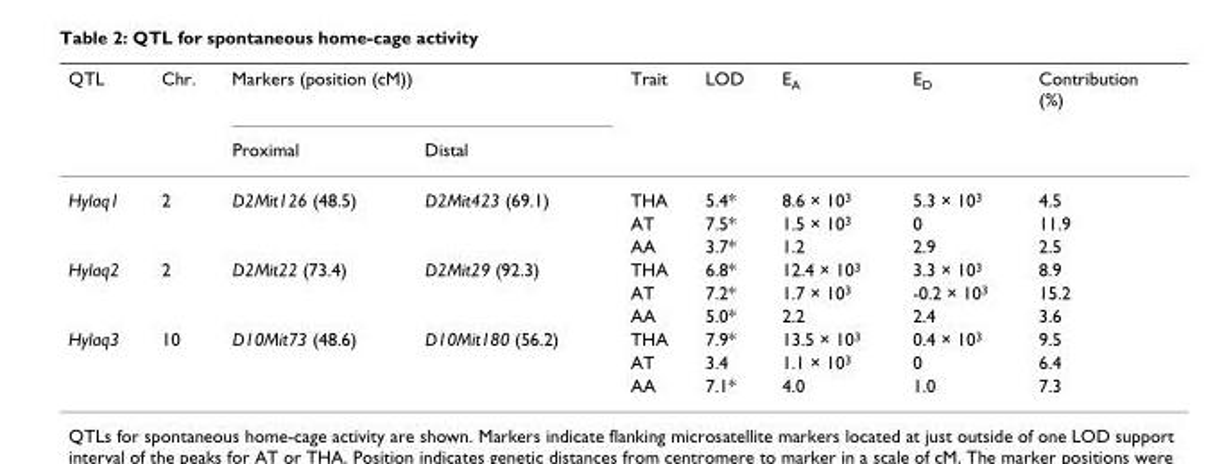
<table><thead><tr><td rowspan="2">QTL</td><td rowspan="2">Chr.</td><td colspan="2">Markers (position (cM))</td><td rowspan="2">Trait</td><td rowspan="2">LOD</td><td rowspan="2">E<sub>A</sub></td><td rowspan="2">E<sub>D</sub></td><td rowspan="2">Contribution (%)</td></tr><tr><td>Proximal</td><td>Distal</td></tr></thead><tbody><tr><td rowspan="3">Hylaq1</td><td>2</td><td>D2Mit126 (48.5)</td><td>D2Mit423 (69.1)</td><td>THA</td><td>5.4*</td><td>8.6 × 10<sup>3</sup></td><td>5.3 × 10<sup>3</sup></td><td>4.5</td></tr><tr><td></td><td></td><td></td><td>AT</td><td>7.5*</td><td>1.5 × 10<sup>3</sup></td><td>0</td><td>11.9</td></tr><tr><td></td><td></td><td></td><td>AA</td><td>3.7*</td><td>1.2</td><td>2.9</td><td>2.5</td></tr><tr><td rowspan="3">Hylaq2</td><td>2</td><td>D2Mit22 (73.4)</td><td>D2Mit29 (92.3)</td><td>THA</td><td>6.8*</td><td>12.4 × 10<sup>3</sup></td><td>3.3 × 10<sup>3</sup></td><td>8.9</td></tr><tr><td></td><td></td><td></td><td>AT</td><td>7.2*</td><td>1.7 × 10<sup>3</sup></td><td>-0.2 × 10<sup>3</sup></td><td>15.2</td></tr><tr><td></td><td></td><td></td><td>AA</td><td>5.0*</td><td>2.2</td><td>2.4</td><td>3.6</td></tr><tr><td rowspan="3">Hylaq3</td><td>10</td><td>D10Mit73 (48.6)</td><td>D10Mit180 (56.2)</td><td>THA</td><td>7.9*</td><td>13.5 × 10<sup>3</sup></td><td>0.4 × 10<sup>3</sup></td><td>9.5</td></tr><tr><td></td><td></td><td></td><td>AT</td><td>3.4</td><td>1.1 × 10<sup>3</sup></td><td>0</td><td>6.4</td></tr><tr><td></td><td></td><td></td><td>AA</td><td>7.1*</td><td>4.0</td><td>1.0</td><td>7.3</td></tr></tbody></table>